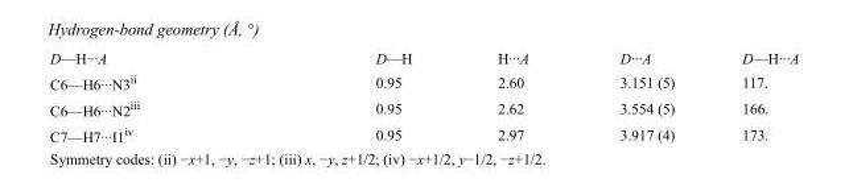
<table><tbody><tr><td>D—H···A</td><td>D—H</td><td>H···A</td><td>D···A</td><td>D—H···A</td></tr><tr><td>C6—H6···N3<sup>ii</sup></td><td>0.95</td><td>2.60</td><td>3.151 (5)</td><td>117.</td></tr><tr><td>C6—H6···N2<sup>iii</sup></td><td>0.95</td><td>2.62</td><td>3.554 (5)</td><td>166.</td></tr><tr><td>C7—H7···I1<sup>iv</sup></td><td>0.95</td><td>2.97</td><td>3.917 (4)</td><td>173.</td></tr></tbody></table>